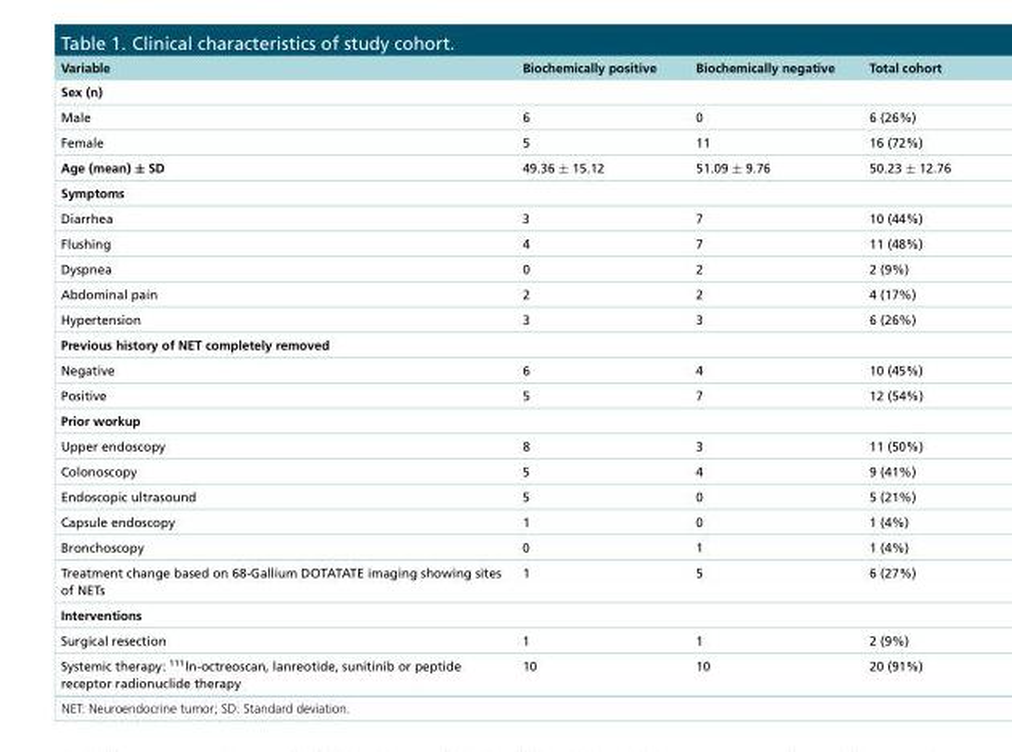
<table><thead><tr><td>Variable</td><td>Biochemically positive</td><td>Biochemically negative</td><td>Total cohort</td></tr></thead><tbody><tr><td colspan="4">Sex (n)</td></tr><tr><td>Male</td><td>6</td><td>0</td><td>6 (26%)</td></tr><tr><td>Female</td><td>5</td><td>11</td><td>16 (72%)</td></tr><tr><td>Age (mean) ± SD</td><td>49.36 ± 15.12</td><td>51.09 ± 9.76</td><td>50.23 ± 12.76</td></tr><tr><td colspan="4">Symptoms</td></tr><tr><td>Diarrhea</td><td>3</td><td>7</td><td>10 (44%)</td></tr><tr><td>Flushing</td><td>4</td><td>7</td><td>11 (48%)</td></tr><tr><td>Dyspnea</td><td>0</td><td>2</td><td>2 (9%)</td></tr><tr><td>Abdominal pain</td><td>2</td><td>2</td><td>4 (17%)</td></tr><tr><td>Hypertension</td><td>3</td><td>3</td><td>6 (26%)</td></tr><tr><td colspan="4">Previous history of NET completely removed</td></tr><tr><td>Negative</td><td>6</td><td>4</td><td>10 (45%)</td></tr><tr><td>Positive</td><td>5</td><td>7</td><td>12 (54%)</td></tr><tr><td colspan="4">Prior workup</td></tr><tr><td>Upper endoscopy</td><td>8</td><td>3</td><td>11 (50%)</td></tr><tr><td>Colonoscopy</td><td>5</td><td>4</td><td>9 (41%)</td></tr><tr><td>Endoscopic ultrasound</td><td>5</td><td>0</td><td>5 (21%)</td></tr><tr><td>Capsule endoscopy</td><td>1</td><td>0</td><td>1 (4%)</td></tr><tr><td>Bronchoscopy</td><td>0</td><td>1</td><td>1 (4%)</td></tr><tr><td>Treatment change based on 68-Gallium DOTATATE imaging showing sites of NETs</td><td>1</td><td>5</td><td>6 (27%)</td></tr><tr><td colspan="4">Interventions</td></tr><tr><td>Surgical resection</td><td>1</td><td>1</td><td>2 (9%)</td></tr><tr><td>Systemic therapy: <sup>111</sup>ln-octreoscan, lanreotide, sunitinib or peptide receptor radionuclide therapy</td><td>10</td><td>10</td><td>20 (91%)</td></tr></tbody></table>